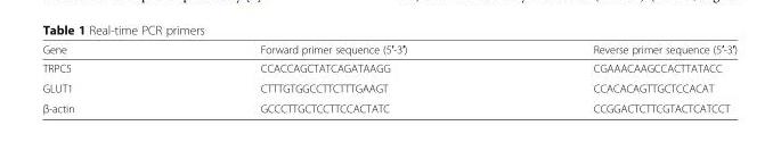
<table><thead><tr><td>Gene</td><td>Forward primer sequence (5′-3′)</td><td>Reverse primer sequence (5′-3′)</td></tr></thead><tbody><tr><td>TRPC5</td><td>CCACCAGCTATCAGATAAGG</td><td>CGAAACAAGCCACTTATACC</td></tr><tr><td>GLUT1</td><td>CTTTGTGGCCTTCTTTGAAGT</td><td>CCACACAGTTGCTCCACAT</td></tr><tr><td>β-actin</td><td>GCCCTTGCTCCTTCCACTATC</td><td>CCGGACTCTTCGTACTCATCCT</td></tr></tbody></table>